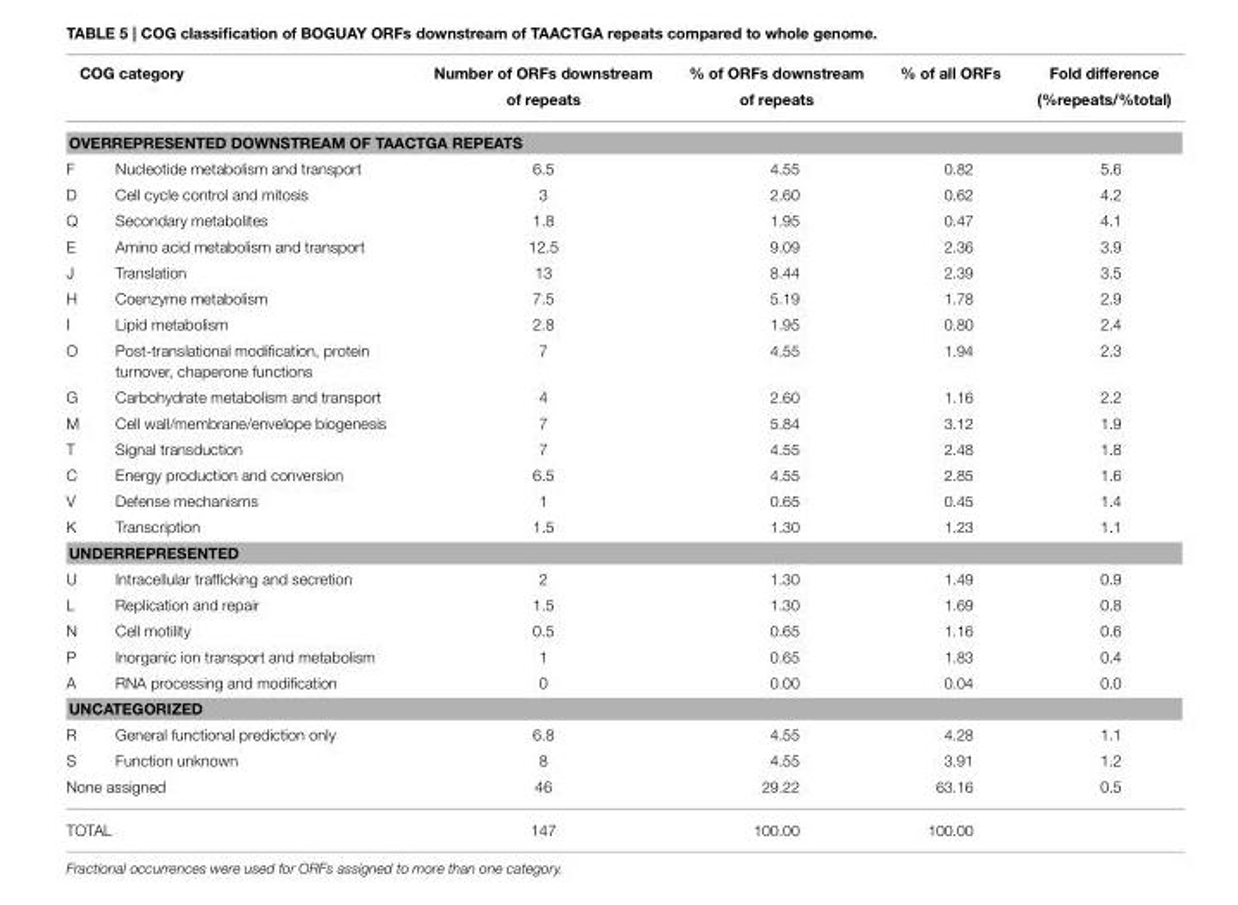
<table><thead><tr><td colspan="2">COG category</td><td>Number of ORFs downstream of repeats</td><td>% of ORFs downstream of repeats</td><td>% of all ORFs</td><td>Fold difference (%repeats/%total)</td></tr><tr><td colspan="6">OVERREPRESENTED DOWNSTREAM OF TAACTGA REPEATS</td></tr><tr><td>F</td><td>Nucleotide metabolism and transport</td><td>6.5</td><td>4.55</td><td>0.82</td><td>5.6</td></tr></thead><tbody><tr><td>D</td><td>Cell cycle control and mitosis</td><td>3</td><td>2.60</td><td>0.62</td><td>4.2</td></tr><tr><td>Q</td><td>Secondary metabolites</td><td>1.8</td><td>1.95</td><td>0.47</td><td>4.1</td></tr><tr><td>E</td><td>Amino acid metabolism and transport</td><td>12.5</td><td>9.09</td><td>2.36</td><td>3.9</td></tr><tr><td>J</td><td>Translation</td><td>13</td><td>8.44</td><td>2.39</td><td>3.5</td></tr><tr><td>H</td><td>Coenzyme metabolism</td><td>7.5</td><td>5.19</td><td>1.78</td><td>2.9</td></tr><tr><td>I</td><td>Lipid metabolism</td><td>2.8</td><td>1.95</td><td>0.80</td><td>2.4</td></tr><tr><td>O</td><td>Post-translational modification, protein turnover, chaperone functions</td><td>7</td><td>4.55</td><td>1.94</td><td>2.3</td></tr><tr><td>G</td><td>Carbohydrate metabolism and transport</td><td>4</td><td>2.60</td><td>1.16</td><td>2.2</td></tr><tr><td>M</td><td>Cell wall/membrane/envelope biogenesis</td><td>7</td><td>5.84</td><td>3.12</td><td>1.9</td></tr><tr><td>T</td><td>Signal transduction</td><td>7</td><td>4.55</td><td>2.48</td><td>1.8</td></tr><tr><td>C</td><td>Energy production and conversion</td><td>6.5</td><td>4.55</td><td>2.85</td><td>1.6</td></tr><tr><td>V</td><td>Defense mechanisms</td><td>1</td><td>0.65</td><td>0.45</td><td>1.4</td></tr><tr><td>K</td><td>Transcription</td><td>1.5</td><td>1.30</td><td>1.23</td><td>1.1</td></tr><tr><td colspan="6">UNDERREPRESENTED</td></tr><tr><td>U</td><td>Intracellular trafficking and secretion</td><td>2</td><td>1.30</td><td>1.49</td><td>0.9</td></tr><tr><td>L</td><td>Replication and repair</td><td>1.5</td><td>1.30</td><td>1.69</td><td>0.8</td></tr><tr><td>N</td><td>Cell motility</td><td>0.5</td><td>0.65</td><td>1.16</td><td>0.6</td></tr><tr><td>P</td><td>Inorganic ion transport and metabolism</td><td>1</td><td>0.65</td><td>1.83</td><td>0.4</td></tr><tr><td>A</td><td>RNA processing and modification</td><td>0</td><td>0.00</td><td>0.04</td><td>0.0</td></tr><tr><td colspan="6">UNCATEGORIZED</td></tr><tr><td>R</td><td>General functional prediction only</td><td>6.8</td><td>4.55</td><td>4.28</td><td>1.1</td></tr><tr><td>S</td><td>Function unknown</td><td>8</td><td>4.55</td><td>3.91</td><td>1.2</td></tr><tr><td colspan="2">None assigned</td><td>46</td><td>29.22</td><td>63.16</td><td>0.5</td></tr><tr><td colspan="2">TOTAL</td><td>147</td><td>100.00</td><td>100.00</td><td></td></tr></tbody></table>